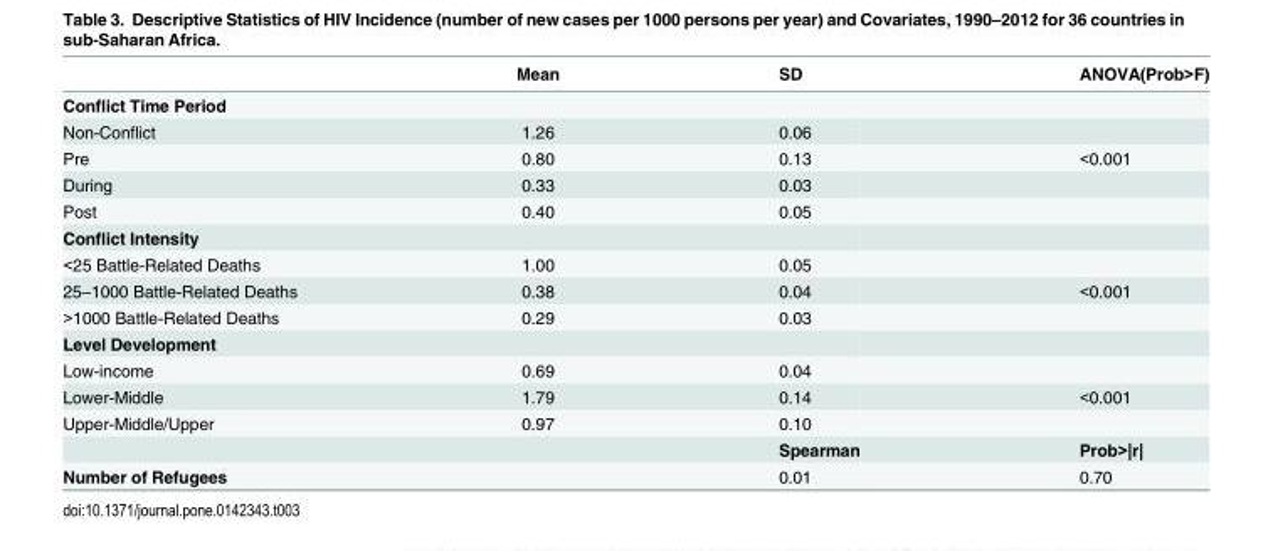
<table><thead><tr><td></td><td>Mean</td><td>SD</td><td>ANOVA(Prob&gt;F)</td></tr></thead><tbody><tr><td colspan="4">Conflict Time Period</td></tr><tr><td>Non-Conflict</td><td>1.26</td><td>0.06</td><td></td></tr><tr><td>Pre</td><td>0.80</td><td>0.13</td><td>&lt;0.001</td></tr><tr><td>During</td><td>0.33</td><td>0.03</td><td></td></tr><tr><td>Post</td><td>0.40</td><td>0.05</td><td></td></tr><tr><td colspan="4">Conflict Intensity</td></tr><tr><td>&lt;25 Battle-Related Deaths</td><td>1.00</td><td>0.05</td><td></td></tr><tr><td>25–1000 Battle-Related Deaths</td><td>0.38</td><td>0.04</td><td>&lt;0.001</td></tr><tr><td>&gt;1000 Battle-Related Deaths</td><td>0.29</td><td>0.03</td><td></td></tr><tr><td colspan="4">Level Development</td></tr><tr><td>Low-income</td><td>0.69</td><td>0.04</td><td></td></tr><tr><td>Lower-Middle</td><td>1.79</td><td>0.14</td><td>&lt;0.001</td></tr><tr><td rowspan="2">Upper-Middle/Upper</td><td>0.97</td><td>0.10</td><td></td></tr><tr><td></td><td>Spearman</td><td>Prob&gt;|r|</td></tr><tr><td>Number of Refugees</td><td></td><td>0.01</td><td>0.70</td></tr></tbody></table>